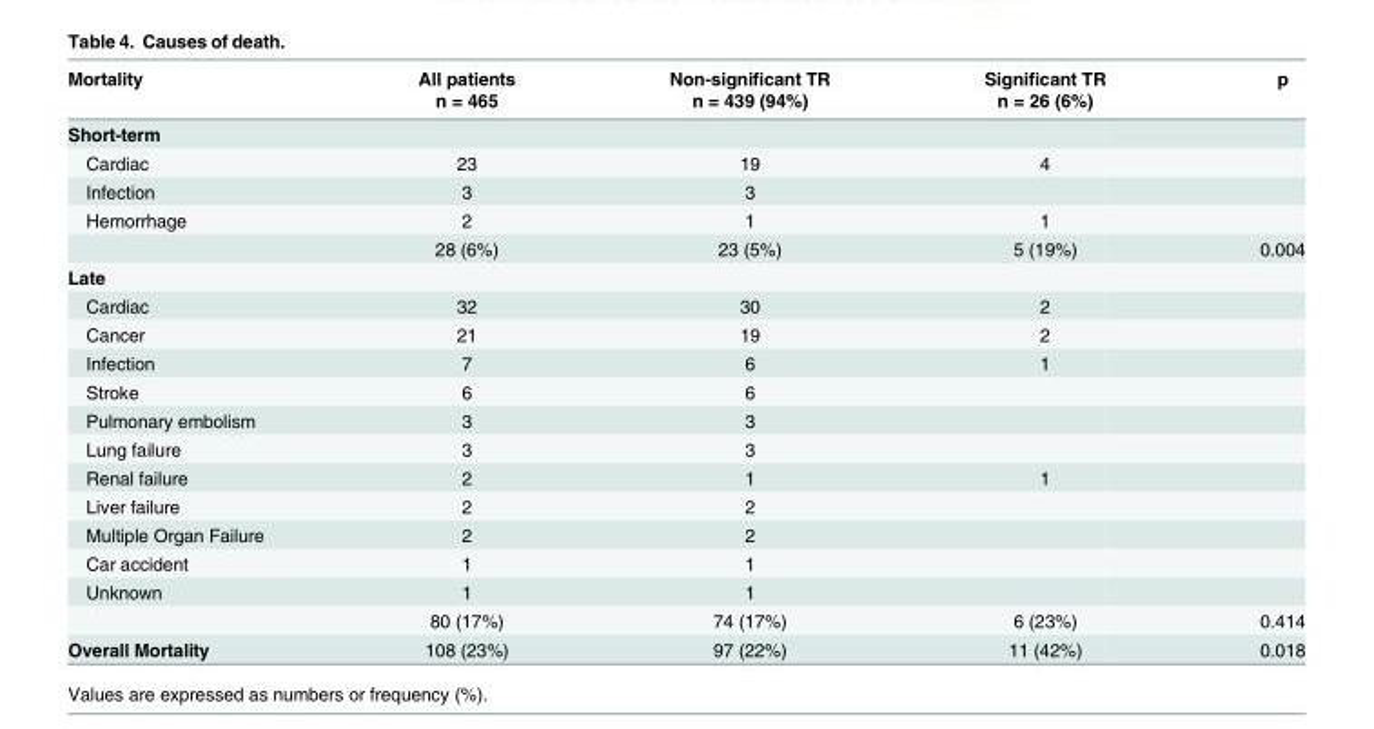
<table><thead><tr><td rowspan="2">Mortality</td><td rowspan="2">All patients n = 465</td><td rowspan="2">Non-significant TR n = 439 (94%)</td><td rowspan="2">Significant TR n = 26 (6%)</td><td rowspan="2">p</td></tr><tr></tr></thead><tbody><tr><td colspan="5">Short-term</td></tr><tr><td>Cardiac</td><td>23</td><td>19</td><td>4</td><td></td></tr><tr><td>Infection</td><td>3</td><td>3</td><td></td><td></td></tr><tr><td rowspan="2">Hemorrhage</td><td>2</td><td>1</td><td>1</td><td></td></tr><tr><td>28 (6%)</td><td>23 (5%)</td><td>5 (19%)</td><td>0.004</td></tr><tr><td colspan="5">Late</td></tr><tr><td>Cardiac</td><td>32</td><td>30</td><td>2</td><td></td></tr><tr><td>Cancer</td><td>21</td><td>19</td><td>2</td><td></td></tr><tr><td>Infection</td><td>7</td><td>6</td><td>1</td><td></td></tr><tr><td>Stroke</td><td>6</td><td>6</td><td></td><td></td></tr><tr><td>Pulmonary embolism</td><td>3</td><td>3</td><td></td><td></td></tr><tr><td>Lung failure</td><td>3</td><td>3</td><td></td><td></td></tr><tr><td>Renal failure</td><td>2</td><td>1</td><td>1</td><td></td></tr><tr><td>Liver failure</td><td>2</td><td>2</td><td></td><td></td></tr><tr><td>Multiple Organ Failure</td><td>2</td><td>2</td><td></td><td></td></tr><tr><td>Car accident</td><td>1</td><td>1</td><td></td><td></td></tr><tr><td rowspan="2">Unknown</td><td>1</td><td>1</td><td></td><td></td></tr><tr><td>80 (17%)</td><td>74 (17%)</td><td>6 (23%)</td><td>0.414</td></tr><tr><td>Overall Mortality</td><td>108 (23%)</td><td>97 (22%)</td><td>11 (42%)</td><td>0.018</td></tr></tbody></table>